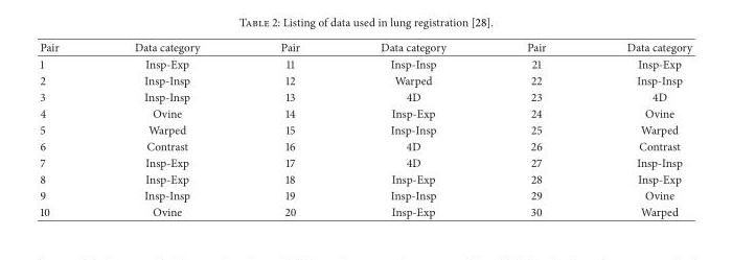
<table><thead><tr><td>Pair</td><td>Data category</td><td>Pair</td><td>Data category</td><td>Pair</td><td>Data category</td></tr></thead><tbody><tr><td>1</td><td>Insp-Exp</td><td>11</td><td>Insp-Insp</td><td>21</td><td>Insp-Exp</td></tr><tr><td>2</td><td>Insp-Insp</td><td>12</td><td>Warped</td><td>22</td><td>Insp-Insp</td></tr><tr><td>3</td><td>Insp-Insp</td><td>13</td><td>4D</td><td>23</td><td>4D</td></tr><tr><td>4</td><td>Ovine</td><td>14</td><td>Insp-Exp</td><td>24</td><td>Ovine</td></tr><tr><td>5</td><td>Warped</td><td>15</td><td>Insp-Insp</td><td>25</td><td>Warped</td></tr><tr><td>6</td><td>Contrast</td><td>16</td><td>4D</td><td>26</td><td>Contrast</td></tr><tr><td>7</td><td>Insp-Exp</td><td>17</td><td>4D</td><td>27</td><td>Insp-Insp</td></tr><tr><td>8</td><td>Insp-Exp</td><td>18</td><td>Insp-Exp</td><td>28</td><td>Insp-Exp</td></tr><tr><td>9</td><td>Insp-Insp</td><td>19</td><td>Insp-Insp</td><td>29</td><td>Ovine</td></tr><tr><td>10</td><td>Ovine</td><td>20</td><td>Insp-Exp</td><td>30</td><td>Warped</td></tr></tbody></table>